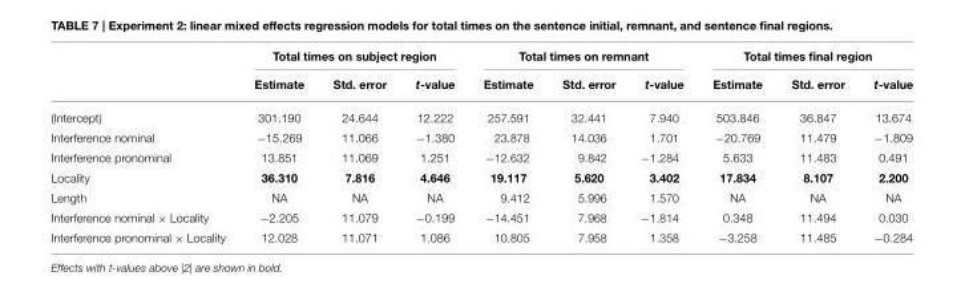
<table><thead><tr><td rowspan="2"></td><td colspan="3">Total times on subject region</td><td colspan="3">Total times on remnant</td><td colspan="3">Total times final region</td></tr><tr><td>Estimate</td><td>Std. error</td><td>t-value</td><td>Estimate</td><td>Std. error</td><td>t-value</td><td>Estimate</td><td>Std. error</td><td>t-value</td></tr></thead><tbody><tr><td>(Intercept)</td><td>301.190</td><td>24.644</td><td>12.222</td><td>257.591</td><td>32.441</td><td>7.940</td><td>503.846</td><td>36.847</td><td>13.674</td></tr><tr><td>Interference nominal</td><td>−15.269</td><td>11.066</td><td>−1.380</td><td>23.878</td><td>14.036</td><td>1.701</td><td>−20.769</td><td>11.479</td><td>−1.809</td></tr><tr><td>Interference pronominal</td><td>13.851</td><td>11.069</td><td>1.251</td><td>−12.632</td><td>9.842</td><td>−1.284</td><td>5.633</td><td>11.483</td><td>0.491</td></tr><tr><td>Locality</td><td>36.310</td><td>7.816</td><td>4.646</td><td>19.117</td><td>5.620</td><td>3.402</td><td>17.834</td><td>8.107</td><td>2.200</td></tr><tr><td>Length</td><td>NA</td><td>NA</td><td>NA</td><td>9.412</td><td>5.996</td><td>1.570</td><td>NA</td><td>NA</td><td>NA</td></tr><tr><td>Interference nominal × Locality</td><td>−2.205</td><td>11.079</td><td>−0.199</td><td>−14.451</td><td>7.968</td><td>−1.814</td><td>0.348</td><td>11.494</td><td>0.030</td></tr><tr><td>Interference pronominal × Locality</td><td>12.028</td><td>11.071</td><td>1.086</td><td>10.805</td><td>7.958</td><td>1.358</td><td>−3.258</td><td>11.485</td><td>−0.284</td></tr></tbody></table>